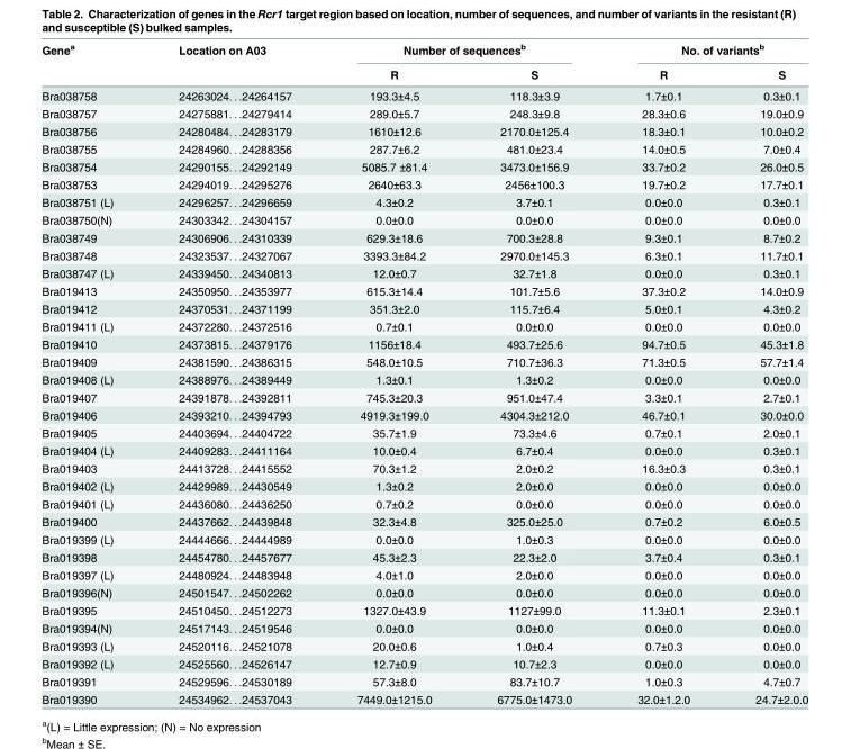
<table><thead><tr><td rowspan="2">Gene<sup>a</sup></td><td rowspan="2">Location on A03</td><td colspan="2">Number of sequences<sup>b</sup></td><td colspan="2">No. of variants<sup>b</sup></td></tr><tr><td>R</td><td>S</td><td>R</td><td>S</td></tr></thead><tbody><tr><td>Bra038758</td><td>24263024. . .24264157</td><td>193.3±4.5</td><td>118.3±3.9</td><td>1.7±0.1</td><td>0.3±0.1</td></tr><tr><td>Bra038757</td><td>24275881. . .24279414</td><td>289.0±5.7</td><td>248.3±9.8</td><td>28.3±0.6</td><td>19.0±0.9</td></tr><tr><td>Bra038756</td><td>24280484. . .24283179</td><td>1610±12.6</td><td>2170.0±125.4</td><td>18.3±0.1</td><td>10.0±0.2</td></tr><tr><td>Bra038755</td><td>24284960. . .24288356</td><td>287.7±6.2</td><td>481.0±23.4</td><td>14.0±0.5</td><td>7.0±0.4</td></tr><tr><td>Bra038754</td><td>24290155. . .24292149</td><td>5085.7 ±81.4</td><td>3473.0±156.9</td><td>33.7±0.2</td><td>26.0±0.5</td></tr><tr><td>Bra038753</td><td>24294019. . .24295276</td><td>2640±63.3</td><td>2456±100.3</td><td>19.7±0.2</td><td>17.7±0.1</td></tr><tr><td>Bra038751 (L)</td><td>24296257. . .24296659</td><td>4.3±0.2</td><td>3.7±0.1</td><td>0.0±0.0</td><td>0.3±0.1</td></tr><tr><td>Bra038750(N)</td><td>24303342. . .24304157</td><td>0.0±0.0</td><td>0.0±0.0</td><td>0.0±0.0</td><td>0.0±0.0</td></tr><tr><td>Bra038749</td><td>24306906. . .24310339</td><td>629.3±18.6</td><td>700.3±28.8</td><td>9.3±0.1</td><td>8.7±0.2</td></tr><tr><td>Bra038748</td><td>24323537. . .24327067</td><td>3393.3±84.2</td><td>2970.0±145.3</td><td>6.3±0.1</td><td>11.7±0.1</td></tr><tr><td>Bra038747 (L)</td><td>24339450. . .24340813</td><td>12.0±0.7</td><td>32.7±1.8</td><td>0.0±0.0</td><td>0.3±0.1</td></tr><tr><td>Bra019413</td><td>24350950. . .24353977</td><td>615.3±14.4</td><td>101.7±5.6</td><td>37.3±0.2</td><td>14.0±0.9</td></tr><tr><td>Bra019412</td><td>24370531. . .24371199</td><td>351.3±2.0</td><td>115.7±6.4</td><td>5.0±0.1</td><td>4.3±0.2</td></tr><tr><td>Bra019411 (L)</td><td>24372280. . .24372516</td><td>0.7±0.1</td><td>0.0±0.0</td><td>0.0±0.0</td><td>0.0±0.0</td></tr><tr><td>Bra019410</td><td>24373815. . .24379176</td><td>1156±18.4</td><td>493.7±25.6</td><td>94.7±0.5</td><td>45.3±1.8</td></tr><tr><td>Bra019409</td><td>24381590. . .24386315</td><td>548.0±10.5</td><td>710.7±36.3</td><td>71.3±0.5</td><td>57.7±1.4</td></tr><tr><td>Bra019408 (L)</td><td>24388976. . .24389449</td><td>1.3±0.1</td><td>1.3±0.2</td><td>0.0±0.0</td><td>0.0±0.0</td></tr><tr><td>Bra019407</td><td>24391878. . .24392811</td><td>745.3±20.3</td><td>951.0±47.4</td><td>3.3±0.1</td><td>2.7±0.1</td></tr><tr><td>Bra019406</td><td>24393210. . .24394793</td><td>4919.3±199.0</td><td>4304.3±212.0</td><td>46.7±0.1</td><td>30.0±0.0</td></tr><tr><td>Bra019405</td><td>24403694. . .24404722</td><td>35.7±1.9</td><td>73.3±4.6</td><td>0.7±0.1</td><td>2.0±0.1</td></tr><tr><td>Bra019404 (L)</td><td>24409283. . .24411164</td><td>10.0±0.4</td><td>6.7±0.4</td><td>0.0±0.0</td><td>0.3±0.1</td></tr><tr><td>Bra019403</td><td>24413728. . .24415552</td><td>70.3±1.2</td><td>2.0±0.2</td><td>16.3±0.3</td><td>0.3±0.1</td></tr><tr><td>Bra019402 (L)</td><td>24429989. . .24430549</td><td>1.3±0.2</td><td>2.0±0.0</td><td>0.0±0.0</td><td>0.0±0.0</td></tr><tr><td>Bra019401 (L)</td><td>24436080. . .24436250</td><td>0.7±0.2</td><td>0.0±0.0</td><td>0.0±0.0</td><td>0.0±0.0</td></tr><tr><td>Bra019400</td><td>24437662. . .24439848</td><td>32.3±4.8</td><td>325.0±25.0</td><td>0.7±0.2</td><td>6.0±0.5</td></tr><tr><td>Bra019399 (L)</td><td>24444666. . .24444989</td><td>0.0±0.0</td><td>1.0±0.3</td><td>0.0±0.0</td><td>0.0±0.0</td></tr><tr><td>Bra019398</td><td>24454780. . .24457677</td><td>45.3±2.3</td><td>22.3±2.0</td><td>3.7±0.4</td><td>0.3±0.1</td></tr><tr><td>Bra019397 (L)</td><td>24480924. . .24483948</td><td>4.0±1.0</td><td>2.0±0.0</td><td>0.0±0.0</td><td>0.0±0.0</td></tr><tr><td>Bra019396(N)</td><td>24501547. . .24502262</td><td>0.0±0.0</td><td>0.0±0.0</td><td>0.0±0.0</td><td>0.0±0.0</td></tr><tr><td>Bra019395</td><td>24510450. . .24512273</td><td>1327.0±43.9</td><td>1127±99.0</td><td>11.3±0.1</td><td>2.3±0.1</td></tr><tr><td>Bra019394(N)</td><td>24517143. . .24519546</td><td>0.0±0.0</td><td>0.0±0.0</td><td>0.0±0.0</td><td>0.0±0.0</td></tr><tr><td>Bra019393 (L)</td><td>24520116. . .24521078</td><td>20.0±0.6</td><td>1.0±0.4</td><td>0.7±0.3</td><td>0.0±0.0</td></tr><tr><td>Bra019392 (L)</td><td>24525560. . .24526147</td><td>12.7±0.9</td><td>10.7±2.3</td><td>0.0±0.0</td><td>0.0±0.0</td></tr><tr><td>Bra019391</td><td>24529596. . .24530189</td><td>57.3±8.0</td><td>83.7±10.7</td><td>1.0±0.3</td><td>4.7±0.7</td></tr><tr><td>Bra019390</td><td>24534962. . .24537043</td><td>7449.0±1215.0</td><td>6775.0±1473.0</td><td>32.0±1.2.0</td><td>24.7±2.0.0</td></tr></tbody></table>